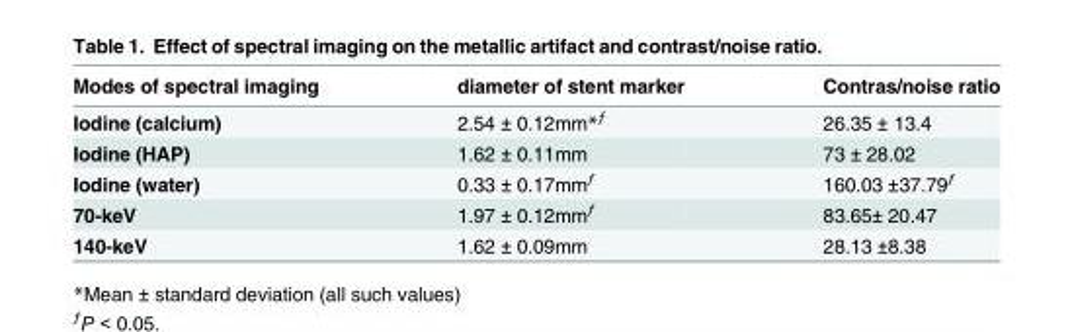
<table><thead><tr><td>Modes of spectral imaging</td><td>diameter of stent marker</td><td>Contras/noise ratio</td></tr></thead><tbody><tr><td>Iodine (calcium)</td><td>2.54 ± 0.12mm*<sup>ƒ</sup></td><td>26.35 ± 13.4</td></tr><tr><td>Iodine (HAP)</td><td>1.62 ± 0.11mm</td><td>73 ± 28.02</td></tr><tr><td>Iodine (water)</td><td>0.33 ± 0.17mm<sup>ƒ</sup></td><td>160.03 ±37.79<sup>ƒ</sup></td></tr><tr><td>70-keV</td><td>1.97 ± 0.12mm<sup>ƒ</sup></td><td>83.65± 20.47</td></tr><tr><td>140-keV</td><td>1.62 ± 0.09mm</td><td>28.13 ±8.38</td></tr></tbody></table>